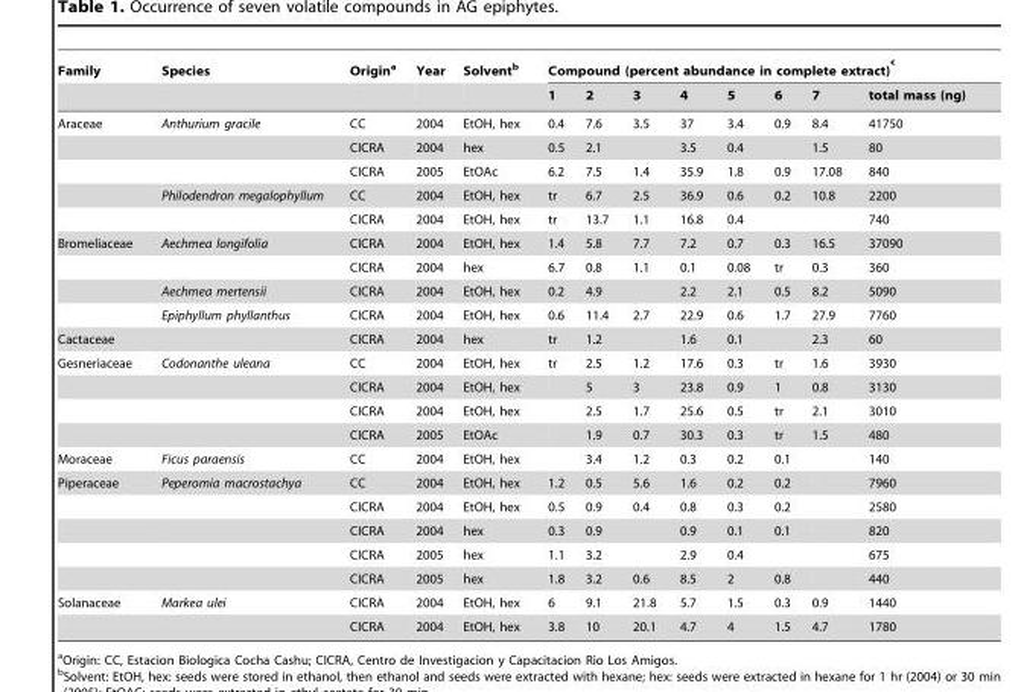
<table><thead><tr><td rowspan="2">Family</td><td rowspan="2">Species</td><td rowspan="2">Origin<sup>a</sup></td><td rowspan="2">Year</td><td rowspan="2">Solvent<sup>b</sup></td><td colspan="8">Compound (percent abundance in complete extract) <sup>c</sup></td></tr><tr><td>1</td><td>2</td><td>3</td><td>4</td><td>5</td><td>6</td><td>7</td><td>total mass (ng)</td></tr></thead><tbody><tr><td rowspan="5">Araceae</td><td>Anthurium gracile</td><td>CC</td><td>2004</td><td>EtOH, hex</td><td>0.4</td><td>7.6</td><td>3.5</td><td>37</td><td>3.4</td><td>0.9</td><td>8.4</td><td>41750</td></tr><tr><td></td><td>CICRA</td><td>2004</td><td>hex</td><td>0.5</td><td>2.1</td><td></td><td>3.5</td><td>0.4</td><td></td><td>1.5</td><td>80</td></tr><tr><td></td><td>CICRA</td><td>2005</td><td>EtOAc</td><td>6.2</td><td>7.5</td><td>1.4</td><td>35.9</td><td>1.8</td><td>0.9</td><td>17.08</td><td>840</td></tr><tr><td>Philodendron megalophyllum</td><td>CC</td><td>2004</td><td>EtOH, hex</td><td>tr</td><td>6.7</td><td>2.5</td><td>36.9</td><td>0.6</td><td>0.2</td><td>10.8</td><td>2200</td></tr><tr><td></td><td>CICRA</td><td>2004</td><td>EtOH, hex</td><td>tr</td><td>13.7</td><td>1.1</td><td>16.8</td><td>0.4</td><td></td><td></td><td>740</td></tr><tr><td rowspan="4">Bromeliaceae</td><td>Aechmea longifolia</td><td>CICRA</td><td>2004</td><td>EtOH, hex</td><td>1.4</td><td>5.8</td><td>7.7</td><td>7.2</td><td>0.7</td><td>0.3</td><td>16.5</td><td>37090</td></tr><tr><td></td><td>CICRA</td><td>2004</td><td>hex</td><td>6.7</td><td>0.8</td><td>1.1</td><td>0.1</td><td>0.08</td><td>tr</td><td>0.3</td><td>360</td></tr><tr><td>Aechmea mertensii</td><td>CICRA</td><td>2004</td><td>EtOH, hex</td><td>0.2</td><td>4.9</td><td></td><td>2.2</td><td>2.1</td><td>0.5</td><td>8.2</td><td>5090</td></tr><tr><td>Epiphyllum phyllanthus</td><td>CICRA</td><td>2004</td><td>EtOH, hex</td><td>0.6</td><td>11.4</td><td>2.7</td><td>22.9</td><td>0.6</td><td>1.7</td><td>27.9</td><td>7760</td></tr><tr><td>Cactaceae</td><td></td><td>CICRA</td><td>2004</td><td>hex</td><td>tr</td><td>1.2</td><td></td><td>1.6</td><td>0.1</td><td></td><td>2.3</td><td>60</td></tr><tr><td rowspan="4">Gesneriaceae</td><td>Codonanthe uleana</td><td>CC</td><td>2004</td><td>EtOH, hex</td><td>tr</td><td>2.5</td><td>1.2</td><td>17.6</td><td>0.3</td><td>tr</td><td>1.6</td><td>3930</td></tr><tr><td></td><td>CICRA</td><td>2004</td><td>EtOH, hex</td><td></td><td>5</td><td>3</td><td>23.8</td><td>0.9</td><td>1</td><td>0.8</td><td>3130</td></tr><tr><td></td><td>CICRA</td><td>2004</td><td>EtOH, hex</td><td></td><td>2.5</td><td>1.7</td><td>25.6</td><td>0.5</td><td>tr</td><td>2.1</td><td>3010</td></tr><tr><td></td><td>CICRA</td><td>2005</td><td>EtOAc</td><td></td><td>1.9</td><td>0.7</td><td>30.3</td><td>0.3</td><td>tr</td><td>1.5</td><td>480</td></tr><tr><td>Moraceae</td><td>Ficus paraensis</td><td>CC</td><td>2004</td><td>EtOH, hex</td><td></td><td>3.4</td><td>1.2</td><td>0.3</td><td>0.2</td><td>0.1</td><td></td><td>140</td></tr><tr><td rowspan="5">Piperaceae</td><td>Peperomia macrostachya</td><td>CC</td><td>2004</td><td>EtOH, hex</td><td>1.2</td><td>0.5</td><td>5.6</td><td>1.6</td><td>0.2</td><td>0.2</td><td></td><td>7960</td></tr><tr><td></td><td>CICRA</td><td>2004</td><td>EtOH, hex</td><td>0.5</td><td>0.9</td><td>0.4</td><td>0.8</td><td>0.3</td><td>0.2</td><td></td><td>2580</td></tr><tr><td></td><td>CICRA</td><td>2004</td><td>hex</td><td>0.3</td><td>0.9</td><td></td><td>0.9</td><td>0.1</td><td>0.1</td><td></td><td>820</td></tr><tr><td></td><td>CICRA</td><td>2005</td><td>hex</td><td>1.1</td><td>3.2</td><td></td><td>2.9</td><td>0.4</td><td></td><td></td><td>675</td></tr><tr><td></td><td>CICRA</td><td>2005</td><td>hex</td><td>1.8</td><td>3.2</td><td>0.6</td><td>8.5</td><td>2</td><td>0.8</td><td></td><td>440</td></tr><tr><td rowspan="2">Solanaceae</td><td>Markea ulei</td><td>CICRA</td><td>2004</td><td>EtOH, hex</td><td>6</td><td>9.1</td><td>21.8</td><td>5.7</td><td>1.5</td><td>0.3</td><td>0.9</td><td>1440</td></tr><tr><td></td><td>CICRA</td><td>2004</td><td>EtOH, hex</td><td>3.8</td><td>10</td><td>20.1</td><td>4.7</td><td>4</td><td>1.5</td><td>4.7</td><td>1780</td></tr></tbody></table>